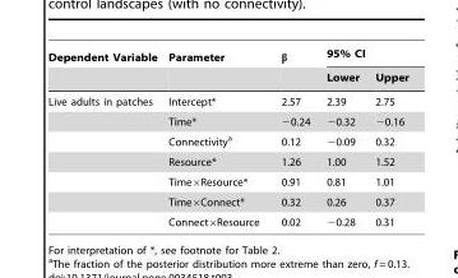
<table><thead><tr><td rowspan="2">Dependent Variable</td><td rowspan="2">Parameter</td><td rowspan="2">β</td><td colspan="2">95% CI</td></tr><tr><td>Lower</td><td>Upper</td></tr></thead><tbody><tr><td rowspan="7">Live adults in patches</td><td>Intercept*</td><td>2.57</td><td>2.39</td><td>2.75</td></tr><tr><td>Time*</td><td>−0.24</td><td>−0.32</td><td>−0.16</td></tr><tr><td>Connectivity<sup>a</sup></td><td>0.12</td><td>−0.09</td><td>0.32</td></tr><tr><td>Resource*</td><td>1.26</td><td>1.00</td><td>1.52</td></tr><tr><td>Time×Resource*</td><td>0.91</td><td>0.81</td><td>1.01</td></tr><tr><td>Time×Connect*</td><td>0.32</td><td>0.26</td><td>0.37</td></tr><tr><td>Connect×Resource</td><td>0.02</td><td>−0.28</td><td>0.31</td></tr></tbody></table>